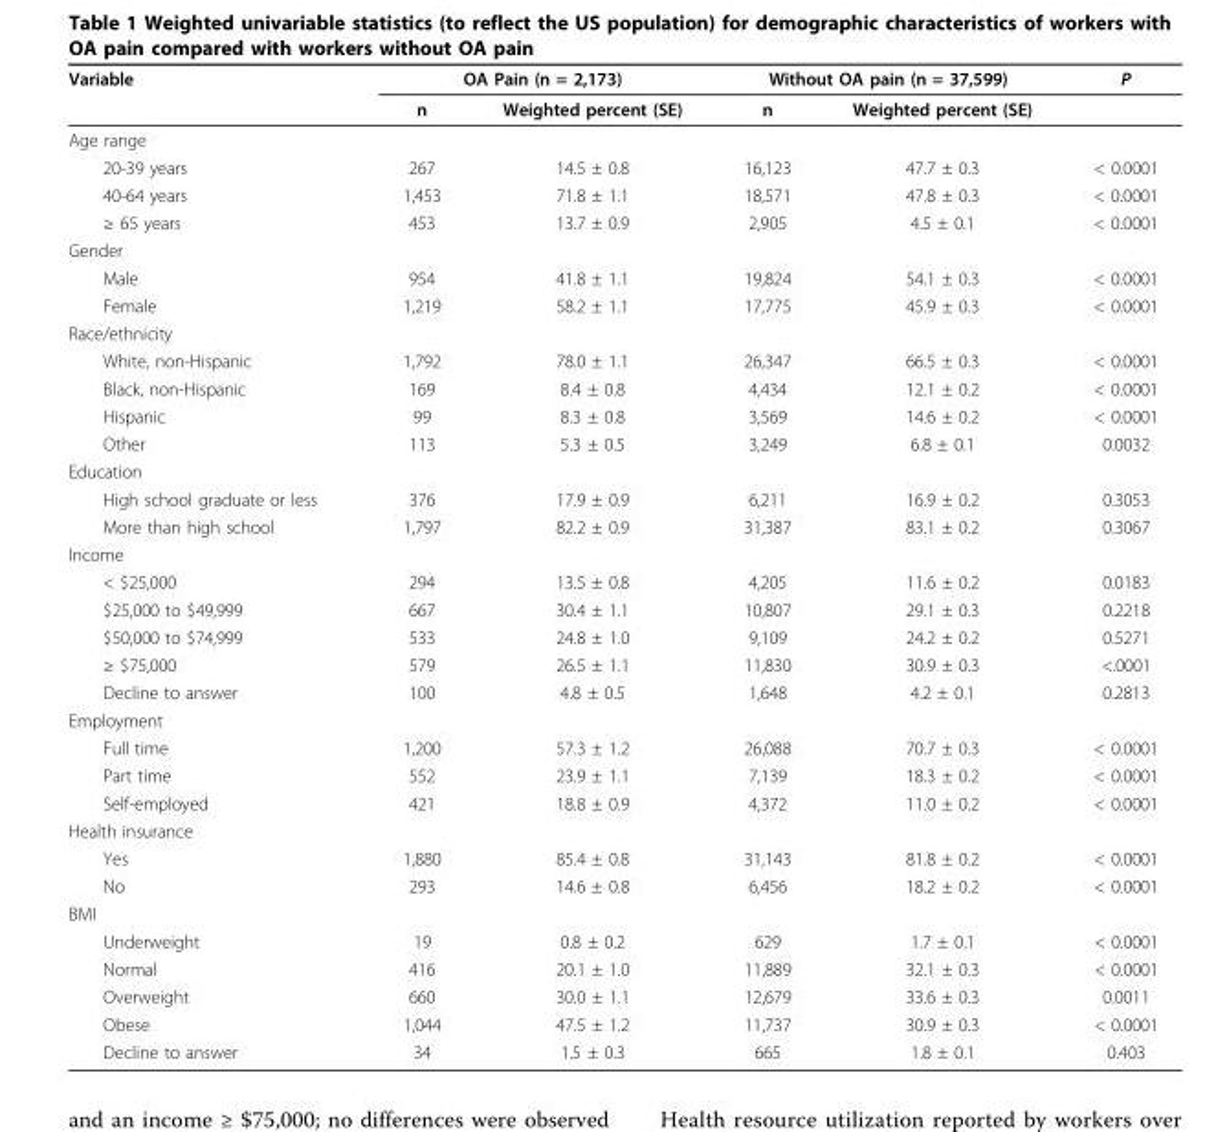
<table><thead><tr><td rowspan="2">Variable</td><td colspan="2">OA Pain (n = 2,173)</td><td colspan="2">Without OA pain (n = 37,599)</td><td rowspan="2">P</td></tr><tr><td>n</td><td>Weighted percent (SE)</td><td>n</td><td>Weighted percent (SE)</td></tr></thead><tbody><tr><td colspan="6">Age range</td></tr><tr><td>20-39 years</td><td>267</td><td>14.5 ± 0.8</td><td>16,123</td><td>47.7 ± 0.3</td><td>&lt; 0.0001</td></tr><tr><td>40-64 years</td><td>1,453</td><td>71.8 ± 1.1</td><td>18,571</td><td>47.8 ± 0.3</td><td>&lt; 0.0001</td></tr><tr><td>≥ 65 years</td><td>453</td><td>13.7 ± 0.9</td><td>2,905</td><td>4.5 ± 0.1</td><td>&lt; 0.0001</td></tr><tr><td colspan="6">Gender</td></tr><tr><td>Male</td><td>954</td><td>41.8 ± 1.1</td><td>19,824</td><td>54.1 ± 0.3</td><td>&lt; 0.0001</td></tr><tr><td>Female</td><td>1,219</td><td>58.2 ± 1.1</td><td>17,775</td><td>45.9 ± 0.3</td><td>&lt; 0.0001</td></tr><tr><td colspan="6">Race/ethnicity</td></tr><tr><td>White, non-Hispanic</td><td>1,792</td><td>78.0 ± 1.1</td><td>26,347</td><td>66.5 ± 0.3</td><td>&lt; 0.0001</td></tr><tr><td>Black, non-Hispanic</td><td>169</td><td>8.4 ± 0.8</td><td>4,434</td><td>12.1 ± 0.2</td><td>&lt; 0.0001</td></tr><tr><td>Hispanic</td><td>99</td><td>8.3 ± 0.8</td><td>3,569</td><td>14.6 ± 0.2</td><td>&lt; 0.0001</td></tr><tr><td>Other</td><td>113</td><td>5.3 ± 0.5</td><td>3,249</td><td>6.8 ± 0.1</td><td>0.0032</td></tr><tr><td colspan="6">Education</td></tr><tr><td>High school graduate or less</td><td>376</td><td>17.9 ± 0.9</td><td>6,211</td><td>16.9 ± 0.2</td><td>0.3053</td></tr><tr><td>More than high school</td><td>1,797</td><td>82.2 ± 0.9</td><td>31,387</td><td>83.1 ± 0.2</td><td>0.3067</td></tr><tr><td colspan="6">Income</td></tr><tr><td>&lt; $25,000</td><td>294</td><td>13.5 ± 0.8</td><td>4,205</td><td>11.6 ± 0.2</td><td>0.0183</td></tr><tr><td>$25,000 to $49,999</td><td>667</td><td>30.4 ± 1.1</td><td>10,807</td><td>29.1 ± 0.3</td><td>0.2218</td></tr><tr><td>$50,000 to $74,999</td><td>533</td><td>24.8 ± 1.0</td><td>9,109</td><td>24.2 ± 0.2</td><td>0.5271</td></tr><tr><td>≥ $75,000</td><td>579</td><td>26.5 ± 1.1</td><td>11,830</td><td>30.9 ± 0.3</td><td>&lt;.0001</td></tr><tr><td>Decline to answer</td><td>100</td><td>4.8 ± 0.5</td><td>1,648</td><td>4.2 ± 0.1</td><td>0.2813</td></tr><tr><td colspan="6">Employment</td></tr><tr><td>Full time</td><td>1,200</td><td>57.3 ± 1.2</td><td>26,088</td><td>70.7 ± 0.3</td><td>&lt; 0.0001</td></tr><tr><td>Part time</td><td>552</td><td>23.9 ± 1.1</td><td>7,139</td><td>18.3 ± 0.2</td><td>&lt; 0.0001</td></tr><tr><td>Self-employed</td><td>421</td><td>18.8 ± 0.9</td><td>4,372</td><td>11.0 ± 0.2</td><td>&lt; 0.0001</td></tr><tr><td colspan="6">Health insurance</td></tr><tr><td>Yes</td><td>1,880</td><td>85.4 ± 0.8</td><td>31,143</td><td>81.8 ± 0.2</td><td>&lt; 0.0001</td></tr><tr><td>No</td><td>293</td><td>14.6 ± 0.8</td><td>6,456</td><td>18.2 ± 0.2</td><td>&lt; 0.0001</td></tr><tr><td colspan="6">BMI</td></tr><tr><td>Underweight</td><td>19</td><td>0.8 ± 0.2</td><td>629</td><td>1.7 ± 0.1</td><td>&lt; 0.0001</td></tr><tr><td>Normal</td><td>416</td><td>20.1 ± 1.0</td><td>11,889</td><td>32.1 ± 0.3</td><td>&lt; 0.0001</td></tr><tr><td>Overweight</td><td>660</td><td>30.0 ± 1.1</td><td>12,679</td><td>33.6 ± 0.3</td><td>0.0011</td></tr><tr><td>Obese</td><td>1,044</td><td>47.5 ± 1.2</td><td>11,737</td><td>30.9 ± 0.3</td><td>&lt; 0.0001</td></tr><tr><td>Decline to answer</td><td>34</td><td>1.5 ± 0.3</td><td>665</td><td>1.8 ± 0.1</td><td>0.403</td></tr></tbody></table>